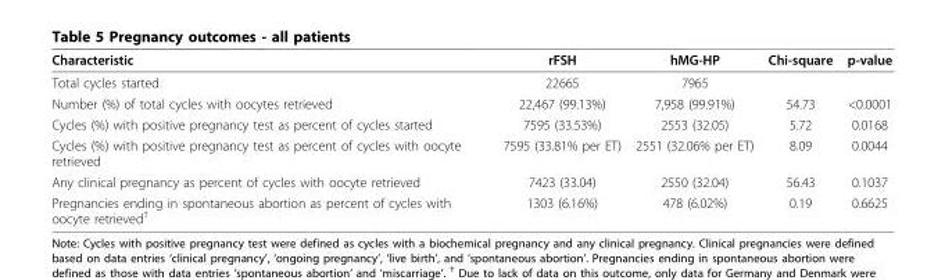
<table><thead><tr><td>Characteristic</td><td>rFSH</td><td>hMG-HP</td><td>Chi-square</td><td>p-value</td></tr></thead><tbody><tr><td>Total cycles started</td><td>22665</td><td>7965</td><td></td><td></td></tr><tr><td>Number (%) of total cycles with oocytes retrieved</td><td>22,467 (99.13%)</td><td>7,958 (99.91%)</td><td>54.73</td><td>&lt;0.0001</td></tr><tr><td>Cycles (%) with positive pregnancy test as percent of cycles started</td><td>7595 (33.53%)</td><td>2553 (32.05)</td><td>5.72</td><td>0.0168</td></tr><tr><td>Cycles (%) with positive pregnancy test as percent of cycles with oocyte retrieved</td><td>7595 (33.81% per ET)</td><td>2551 (32.06% per ET)</td><td>8.09</td><td>0.0044</td></tr><tr><td>Any clinical pregnancy as percent of cycles with oocyte retrieved</td><td>7423 (33.04)</td><td>2550 (32.04)</td><td>56.43</td><td>0.1037</td></tr><tr><td>Pregnancies ending in spontaneous abortion as percent of cycles with oocyte retrieved<sup>†</sup></td><td>1303 (6.16%)</td><td>478 (6.02%)</td><td>0.19</td><td>0.6625</td></tr></tbody></table>